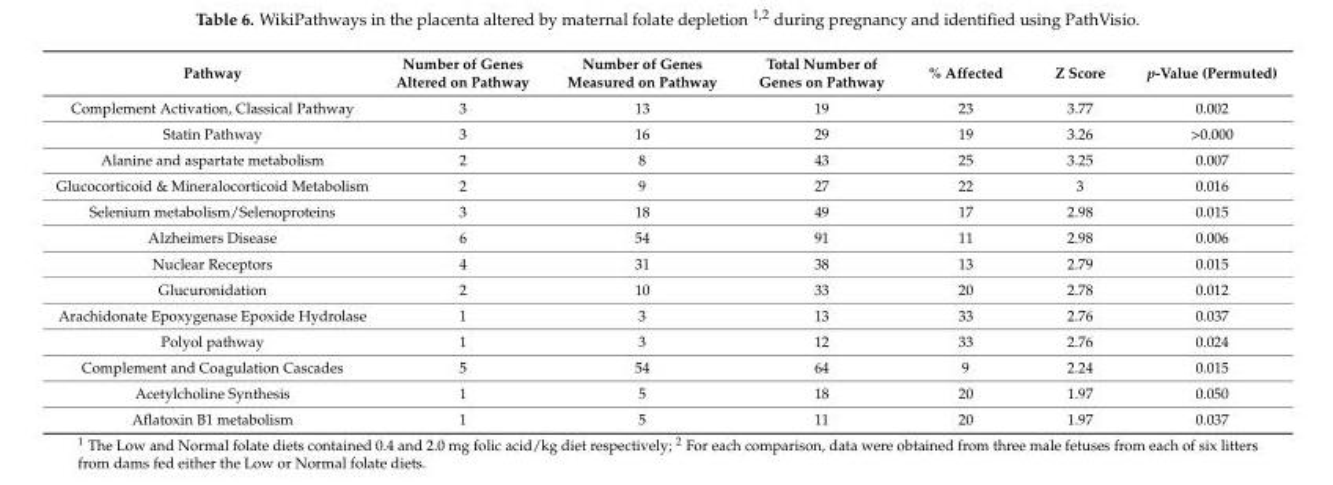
<table><thead><tr><td>Pathway</td><td>Number of Genes Altered on Pathway</td><td>Number of Genes Measured on Pathway</td><td>Total Number of Genes on Pathway</td><td>% Affected</td><td>Z Score</td><td>p-Value (Permuted)</td></tr></thead><tbody><tr><td>Complement Activation, Classical Pathway</td><td>3</td><td>13</td><td>19</td><td>23</td><td>3.77</td><td>0.002</td></tr><tr><td>Statin Pathway</td><td>3</td><td>16</td><td>29</td><td>19</td><td>3.26</td><td>&gt;0.000</td></tr><tr><td>Alanine and aspartate metabolism</td><td>2</td><td>8</td><td>43</td><td>25</td><td>3.25</td><td>0.007</td></tr><tr><td>Glucocorticoid &amp; Mineralocorticoid Metabolism</td><td>2</td><td>9</td><td>27</td><td>22</td><td>3</td><td>0.016</td></tr><tr><td>Selenium metabolism/Selenoproteins</td><td>3</td><td>18</td><td>49</td><td>17</td><td>2.98</td><td>0.015</td></tr><tr><td>Alzheimers Disease</td><td>6</td><td>54</td><td>91</td><td>11</td><td>2.98</td><td>0.006</td></tr><tr><td>Nuclear Receptors</td><td>4</td><td>31</td><td>38</td><td>13</td><td>2.79</td><td>0.015</td></tr><tr><td>Glucuronidation</td><td>2</td><td>10</td><td>33</td><td>20</td><td>2.78</td><td>0.012</td></tr><tr><td>Arachidonate Epoxygenase Epoxide Hydrolase</td><td>1</td><td>3</td><td>13</td><td>33</td><td>2.76</td><td>0.037</td></tr><tr><td>Polyol pathway</td><td>1</td><td>3</td><td>12</td><td>33</td><td>2.76</td><td>0.024</td></tr><tr><td>Complement and Coagulation Cascades</td><td>5</td><td>54</td><td>64</td><td>9</td><td>2.24</td><td>0.015</td></tr><tr><td>Acetylcholine Synthesis</td><td>1</td><td>5</td><td>18</td><td>20</td><td>1.97</td><td>0.050</td></tr><tr><td>Aflatoxin B1 metabolism</td><td>1</td><td>5</td><td>11</td><td>20</td><td>1.97</td><td>0.037</td></tr></tbody></table>